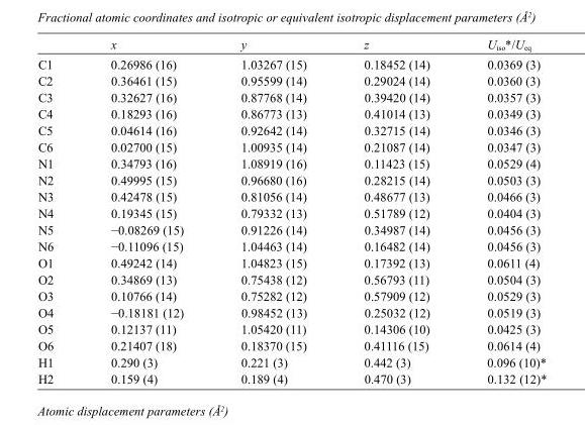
<table><thead><tr><td></td><td>x</td><td>y</td><td>z</td><td>U<sub>iso</sub>*/U<sub>eq</sub></td></tr></thead><tbody><tr><td>C1</td><td>0.26986 (16)</td><td>1.03267 (15)</td><td>0.18452 (14)</td><td>0.0369 (3)</td></tr><tr><td>C2</td><td>0.36461 (15)</td><td>0.95599 (14)</td><td>0.29024 (14)</td><td>0.0360 (3)</td></tr><tr><td>C3</td><td>0.32627 (16)</td><td>0.87768 (14)</td><td>0.39420 (14)</td><td>0.0357 (3)</td></tr><tr><td>C4</td><td>0.18293 (16)</td><td>0.86773 (13)</td><td>0.41014 (13)</td><td>0.0349 (3)</td></tr><tr><td>C5</td><td>0.04614 (16)</td><td>0.92642 (14)</td><td>0.32715 (14)</td><td>0.0346 (3)</td></tr><tr><td>C6</td><td>0.02700 (15)</td><td>1.00935 (14)</td><td>0.21087 (14)</td><td>0.0347 (3)</td></tr><tr><td>N1</td><td>0.34793 (16)</td><td>1.08919 (16)</td><td>0.11423 (15)</td><td>0.0529 (4)</td></tr><tr><td>N2</td><td>0.49995 (15)</td><td>0.96680 (16)</td><td>0.28215 (14)</td><td>0.0503 (3)</td></tr><tr><td>N3</td><td>0.42478 (15)</td><td>0.81056 (14)</td><td>0.48677 (13)</td><td>0.0466 (3)</td></tr><tr><td>N4</td><td>0.19345 (15)</td><td>0.79332 (13)</td><td>0.51789 (12)</td><td>0.0404 (3)</td></tr><tr><td>N5</td><td>−0.08269 (15)</td><td>0.91226 (14)</td><td>0.34987 (14)</td><td>0.0456 (3)</td></tr><tr><td>N6</td><td>−0.11096 (15)</td><td>1.04463 (14)</td><td>0.16482 (14)</td><td>0.0456 (3)</td></tr><tr><td>O1</td><td>0.49242 (14)</td><td>1.04823 (15)</td><td>0.17392 (13)</td><td>0.0611 (4)</td></tr><tr><td>O2</td><td>0.34869 (13)</td><td>0.75438 (12)</td><td>0.56793 (11)</td><td>0.0504 (3)</td></tr><tr><td>O3</td><td>0.10766 (14)</td><td>0.75282 (12)</td><td>0.57909 (12)</td><td>0.0529 (3)</td></tr><tr><td>O4</td><td>−0.18181 (12)</td><td>0.98452 (13)</td><td>0.25032 (12)</td><td>0.0519 (3)</td></tr><tr><td>O5</td><td>0.12137 (11)</td><td>1.05420 (11)</td><td>0.14306 (10)</td><td>0.0425 (3)</td></tr><tr><td>O6</td><td>0.21407 (18)</td><td>0.18370 (15)</td><td>0.41116 (15)</td><td>0.0614 (4)</td></tr><tr><td>H1</td><td>0.290 (3)</td><td>0.221 (3)</td><td>0.442 (3)</td><td>0.096 (10)*</td></tr><tr><td>H2</td><td>0.159 (4)</td><td>0.189 (4)</td><td>0.470 (3)</td><td>0.132 (12)*</td></tr></tbody></table>